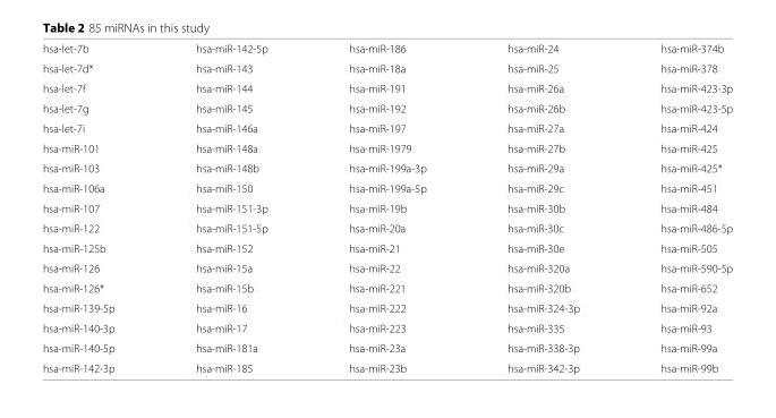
<table><tbody><tr><td>hsa-let-7b</td><td>hsa-miR-142-5p</td><td>hsa-miR-186</td><td>hsa-miR-24</td><td>hsa-miR-374b</td></tr><tr><td>hsa-let-7d*</td><td>hsa-miR-143</td><td>hsa-miR-18a</td><td>hsa-miR-25</td><td>hsa-miR-378</td></tr><tr><td>hsa-let-7f</td><td>hsa-miR-144</td><td>hsa-miR-191</td><td>hsa-miR-26a</td><td>hsa-miR-423-3p</td></tr><tr><td>hsa-let-7g</td><td>hsa-miR-145</td><td>hsa-miR-192</td><td>hsa-miR-26b</td><td>hsa-miR-423-5p</td></tr><tr><td>hsa-let-7i</td><td>hsa-miR-146a</td><td>hsa-miR-197</td><td>hsa-miR-27a</td><td>hsa-miR-424</td></tr><tr><td>hsa-miR-101</td><td>hsa-miR-148a</td><td>hsa-miR-1979</td><td>hsa-miR-27b</td><td>hsa-miR-425</td></tr><tr><td>hsa-miR-103</td><td>hsa-miR-148b</td><td>hsa-miR-199a-3p</td><td>hsa-miR-29a</td><td>hsa-miR-425*</td></tr><tr><td>hsa-miR-106a</td><td>hsa-miR-150</td><td>hsa-miR-199a-5p</td><td>hsa-miR-29c</td><td>hsa-miR-451</td></tr><tr><td>hsa-miR-107</td><td>hsa-miR-151-3p</td><td>hsa-miR-19b</td><td>hsa-miR-30b</td><td>hsa-miR-484</td></tr><tr><td>hsa-miR-122</td><td>hsa-miR-151-5p</td><td>hsa-miR-20a</td><td>hsa-miR-30c</td><td>hsa-miR-486-5p</td></tr><tr><td>hsa-miR-125b</td><td>hsa-miR-152</td><td>hsa-miR-21</td><td>hsa-miR-30e</td><td>hsa-miR-505</td></tr><tr><td>hsa-miR-126</td><td>hsa-miR-15a</td><td>hsa-miR-22</td><td>hsa-miR-320a</td><td>hsa-miR-590-5p</td></tr><tr><td>hsa-miR-126*</td><td>hsa-miR-15b</td><td>hsa-miR-221</td><td>hsa-miR-320b</td><td>hsa-miR-652</td></tr><tr><td>hsa-miR-139-5p</td><td>hsa-miR-16</td><td>hsa-miR-222</td><td>hsa-miR-324-3p</td><td>hsa-miR-92a</td></tr><tr><td>hsa-miR-140-3p</td><td>hsa-miR-17</td><td>hsa-miR-223</td><td>hsa-miR-335</td><td>hsa-miR-93</td></tr><tr><td>hsa-miR-140-5p</td><td>hsa-miR-181a</td><td>hsa-miR-23a</td><td>hsa-miR-338-3p</td><td>hsa-miR-99a</td></tr><tr><td>hsa-miR-142-3p</td><td>hsa-miR-185</td><td>hsa-miR-23b</td><td>hsa-miR-342-3p</td><td>hsa-miR-99b</td></tr></tbody></table>